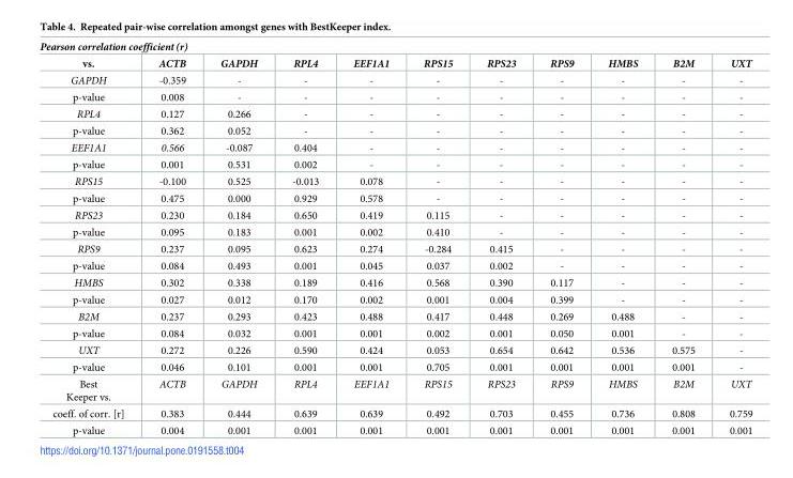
<table><thead><tr><td colspan="11">Pearson correlation coefficient (r)</td></tr><tr><td>vs.</td><td>ACTB</td><td>GAPDH</td><td>RPL4</td><td>EEF1A1</td><td>RPS15</td><td>RPS23</td><td>RPS9</td><td>HMBS</td><td>B2M</td><td>UXT</td></tr></thead><tbody><tr><td>GAPDH</td><td>-0.359</td><td>-</td><td>-</td><td>-</td><td>-</td><td>-</td><td>-</td><td>-</td><td>-</td><td>-</td></tr><tr><td>p-value</td><td>0.008</td><td>-</td><td>-</td><td>-</td><td>-</td><td>-</td><td>-</td><td>-</td><td>-</td><td>-</td></tr><tr><td>RPL4</td><td>0.127</td><td>0.266</td><td>-</td><td>-</td><td>-</td><td>-</td><td>-</td><td>-</td><td>-</td><td>-</td></tr><tr><td>p-value</td><td>0.362</td><td>0.052</td><td>-</td><td>-</td><td>-</td><td>-</td><td>-</td><td>-</td><td>-</td><td>-</td></tr><tr><td>EEF1A1</td><td>0.566</td><td>-0.087</td><td>0.404</td><td>-</td><td>-</td><td>-</td><td>-</td><td>-</td><td>-</td><td>-</td></tr><tr><td>p-value</td><td>0.001</td><td>0.531</td><td>0.002</td><td>-</td><td>-</td><td>-</td><td>-</td><td>-</td><td>-</td><td>-</td></tr><tr><td>RPS15</td><td>-0.100</td><td>0.525</td><td>-0.013</td><td>0.078</td><td>-</td><td>-</td><td>-</td><td>-</td><td>-</td><td>-</td></tr><tr><td>p-value</td><td>0.475</td><td>0.000</td><td>0.929</td><td>0.578</td><td>-</td><td>-</td><td>-</td><td>-</td><td>-</td><td>-</td></tr><tr><td>RPS23</td><td>0.230</td><td>0.184</td><td>0.650</td><td>0.419</td><td>0.115</td><td>-</td><td>-</td><td>-</td><td>-</td><td>-</td></tr><tr><td>p-value</td><td>0.095</td><td>0.183</td><td>0.001</td><td>0.002</td><td>0.410</td><td>-</td><td>-</td><td>-</td><td>-</td><td>-</td></tr><tr><td>RPS9</td><td>0.237</td><td>0.095</td><td>0.623</td><td>0.274</td><td>-0.284</td><td>0.415</td><td>-</td><td>-</td><td>-</td><td>-</td></tr><tr><td>p-value</td><td>0.084</td><td>0.493</td><td>0.001</td><td>0.045</td><td>0.037</td><td>0.002</td><td>-</td><td>-</td><td>-</td><td>-</td></tr><tr><td>HMBS</td><td>0.302</td><td>0.338</td><td>0.189</td><td>0.416</td><td>0.568</td><td>0.390</td><td>0.117</td><td>-</td><td>-</td><td>-</td></tr><tr><td>p-value</td><td>0.027</td><td>0.012</td><td>0.170</td><td>0.002</td><td>0.001</td><td>0.004</td><td>0.399</td><td>-</td><td>-</td><td>-</td></tr><tr><td>B2M</td><td>0.237</td><td>0.293</td><td>0.423</td><td>0.488</td><td>0.417</td><td>0.448</td><td>0.269</td><td>0.488</td><td>-</td><td>-</td></tr><tr><td>p-value</td><td>0.084</td><td>0.032</td><td>0.001</td><td>0.001</td><td>0.002</td><td>0.001</td><td>0.050</td><td>0.001</td><td>-</td><td>-</td></tr><tr><td>UXT</td><td>0.272</td><td>0.226</td><td>0.590</td><td>0.424</td><td>0.053</td><td>0.654</td><td>0.642</td><td>0.536</td><td>0.575</td><td>-</td></tr><tr><td>p-value</td><td>0.046</td><td>0.101</td><td>0.001</td><td>0.001</td><td>0.705</td><td>0.001</td><td>0.001</td><td>0.001</td><td>0.001</td><td>-</td></tr><tr><td>Best Keeper vs.</td><td>ACTB</td><td>GAPDH</td><td>RPL4</td><td>EEF1A1</td><td>RPS15</td><td>RPS23</td><td>RPS9</td><td>HMBS</td><td>B2M</td><td>UXT</td></tr><tr><td>coeff. of corr. [r]</td><td>0.383</td><td>0.444</td><td>0.639</td><td>0.639</td><td>0.492</td><td>0.703</td><td>0.455</td><td>0.736</td><td>0.808</td><td>0.759</td></tr><tr><td>p-value</td><td>0.004</td><td>0.001</td><td>0.001</td><td>0.001</td><td>0.001</td><td>0.001</td><td>0.001</td><td>0.001</td><td>0.001</td><td>0.001</td></tr></tbody></table>